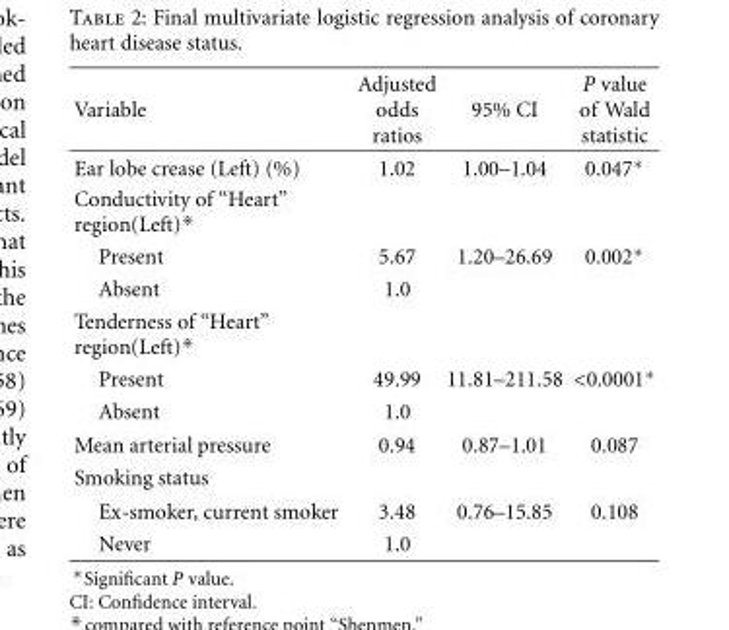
<table><thead><tr><td>Variable</td><td>Adjusted odds ratios</td><td>95% CI</td><td>P value of Wald statistic</td></tr></thead><tbody><tr><td>Ear lobe crease (Left) (%)</td><td>1.02</td><td>1.00–1.04</td><td>0.047∗</td></tr><tr><td colspan="4">Conductivity of “Heart” region(Left)<sup>⋇</sup></td></tr><tr><td>Present</td><td>5.67</td><td>1.20–26.69</td><td>0.002∗</td></tr><tr><td>Absent</td><td>1.0</td><td></td><td></td></tr><tr><td colspan="4">Tenderness of “Heart” region(Left)<sup>⋇</sup></td></tr><tr><td>Present</td><td>49.99</td><td>11.81–211.58</td><td>&lt;0.0001∗</td></tr><tr><td>Absent</td><td>1.0</td><td></td><td></td></tr><tr><td>Mean arterial pressure</td><td>0.94</td><td>0.87–1.01</td><td>0.087</td></tr><tr><td colspan="4">Smoking status</td></tr><tr><td>Ex-smoker, current smoker</td><td>3.48</td><td>0.76–15.85</td><td>0.108</td></tr><tr><td>Never</td><td>1.0</td><td></td><td></td></tr></tbody></table>